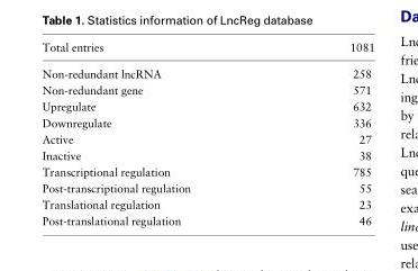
<table><thead><tr><td>Total entries</td><td>1081</td></tr></thead><tbody><tr><td>Non-redundant lncRNA</td><td>258</td></tr><tr><td>Non-redundant gene</td><td>571</td></tr><tr><td>Upregulate</td><td>632</td></tr><tr><td>Downregulate</td><td>336</td></tr><tr><td>Active</td><td>27</td></tr><tr><td>Inactive</td><td>38</td></tr><tr><td>Transcriptional regulation</td><td>785</td></tr><tr><td>Post-transcriptional regulation</td><td>55</td></tr><tr><td>Translational regulation</td><td>23</td></tr><tr><td>Post-translational regulation</td><td>46</td></tr></tbody></table>